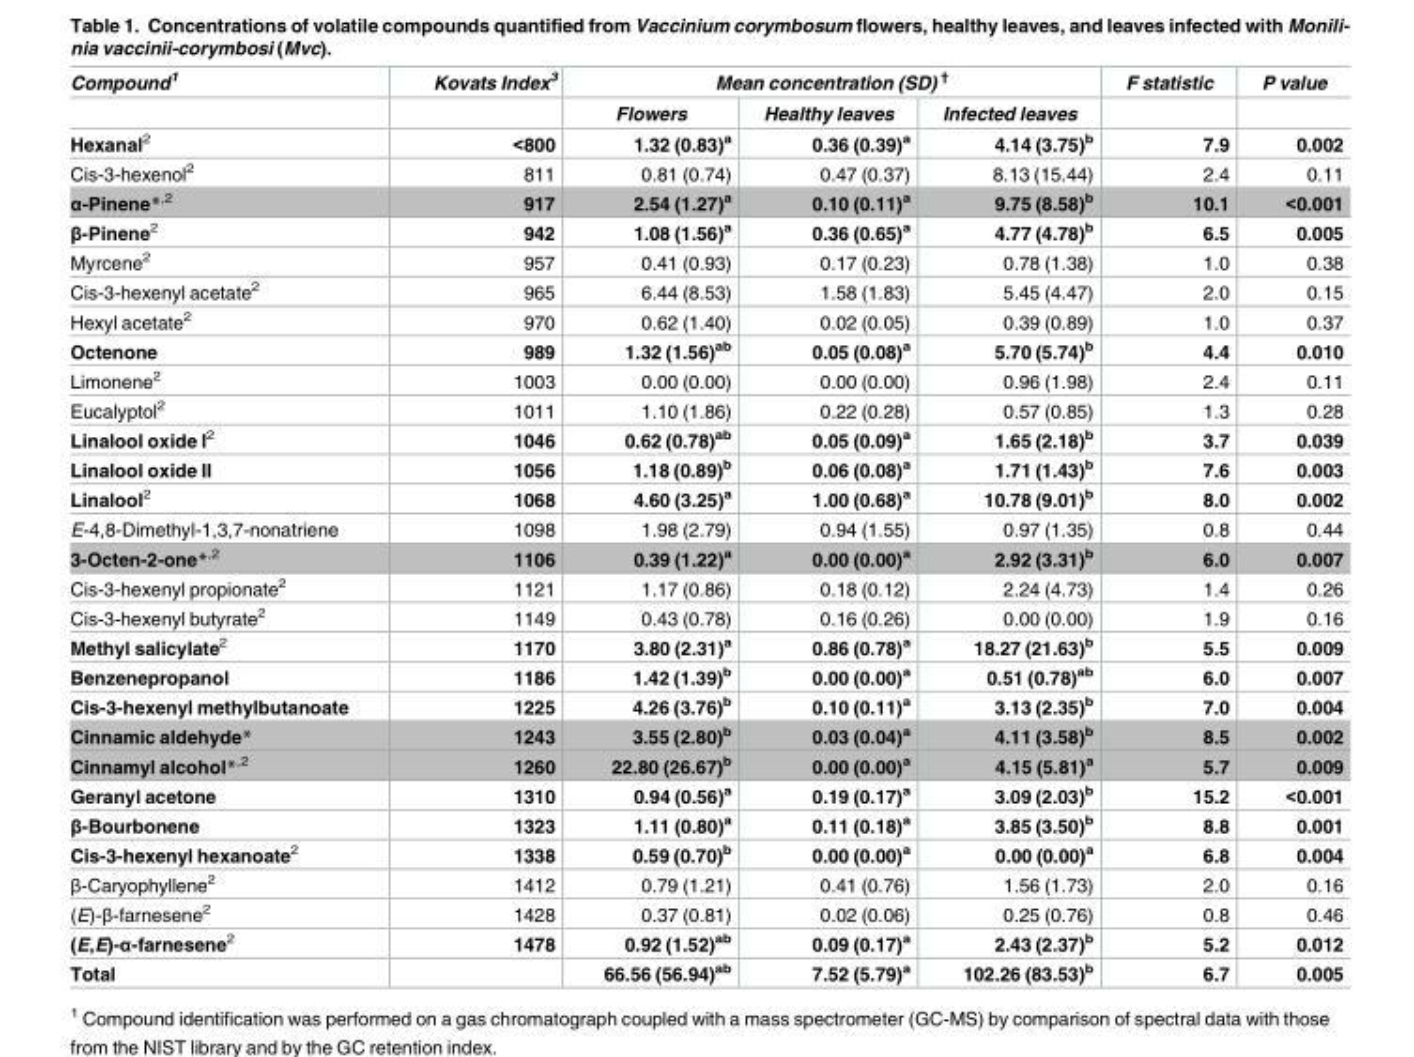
<table><thead><tr><td rowspan="2">Compound<sup>1</sup></td><td rowspan="2">Kovats Index<sup>3</sup></td><td colspan="3">Mean concentration (SD) <sup>†</sup></td><td rowspan="2">F statistic</td><td rowspan="2">P value</td></tr><tr><td>Flowers</td><td>Healthy leaves</td><td>Infected leaves</td></tr></thead><tbody><tr><td>Hexanal<sup>2</sup></td><td>&lt;800</td><td>1.32 (0.83)<sup>a</sup></td><td>0.36 (0.39)<sup>a</sup></td><td>4.14 (3.75)<sup>b</sup></td><td>7.9</td><td>0.002</td></tr><tr><td>Cis-3-hexenol<sup>2</sup></td><td>811</td><td>0.81 (0.74)</td><td>0.47 (0.37)</td><td>8.13 (15.44)</td><td>2.4</td><td>0.11</td></tr><tr><td>α-Pinene*<sup>,2</sup></td><td>917</td><td>2.54 (1.27)<sup>a</sup></td><td>0.10 (0.11)<sup>a</sup></td><td>9.75 (8.58)<sup>b</sup></td><td>10.1</td><td>&lt;0.001</td></tr><tr><td>β-Pinene<sup>2</sup></td><td>942</td><td>1.08 (1.56)<sup>a</sup></td><td>0.36 (0.65)<sup>a</sup></td><td>4.77 (4.78)<sup>b</sup></td><td>6.5</td><td>0.005</td></tr><tr><td>Myrcene<sup>2</sup></td><td>957</td><td>0.41 (0.93)</td><td>0.17 (0.23)</td><td>0.78 (1.38)</td><td>1.0</td><td>0.38</td></tr><tr><td>Cis-3-hexenyl acetate<sup>2</sup></td><td>965</td><td>6.44 (8.53)</td><td>1.58 (1.83)</td><td>5.45 (4.47)</td><td>2.0</td><td>0.15</td></tr><tr><td>Hexyl acetate<sup>2</sup></td><td>970</td><td>0.62 (1.40)</td><td>0.02 (0.05)</td><td>0.39 (0.89)</td><td>1.0</td><td>0.37</td></tr><tr><td>Octenone</td><td>989</td><td>1.32 (1.56)<sup>ab</sup></td><td>0.05 (0.08)<sup>a</sup></td><td>5.70 (5.74)<sup>b</sup></td><td>4.4</td><td>0.010</td></tr><tr><td>Limonene<sup>2</sup></td><td>1003</td><td>0.00 (0.00)</td><td>0.00 (0.00)</td><td>0.96 (1.98)</td><td>2.4</td><td>0.11</td></tr><tr><td>Eucalyptol<sup>2</sup></td><td>1011</td><td>1.10 (1.86)</td><td>0.22 (0.28)</td><td>0.57 (0.85)</td><td>1.3</td><td>0.28</td></tr><tr><td>Linalool oxide I<sup>2</sup></td><td>1046</td><td>0.62 (0.78)<sup>ab</sup></td><td>0.05 (0.09)<sup>a</sup></td><td>1.65 (2.18)<sup>b</sup></td><td>3.7</td><td>0.039</td></tr><tr><td>Linalool oxide II</td><td>1056</td><td>1.18 (0.89)<sup>b</sup></td><td>0.06 (0.08)<sup>a</sup></td><td>1.71 (1.43)<sup>b</sup></td><td>7.6</td><td>0.003</td></tr><tr><td>Linalool<sup>2</sup></td><td>1068</td><td>4.60 (3.25)<sup>a</sup></td><td>1.00 (0.68)<sup>a</sup></td><td>10.78 (9.01)<sup>b</sup></td><td>8.0</td><td>0.002</td></tr><tr><td>E-4,8-Dimethyl-1,3,7-nonatriene</td><td>1098</td><td>1.98 (2.79)</td><td>0.94 (1.55)</td><td>0.97 (1.35)</td><td>0.8</td><td>0.44</td></tr><tr><td>3-Octen-2-one*<sup>,2</sup></td><td>1106</td><td>0.39 (1.22)<sup>a</sup></td><td>0.00 (0.00)<sup>a</sup></td><td>2.92 (3.31)<sup>b</sup></td><td>6.0</td><td>0.007</td></tr><tr><td>Cis-3-hexenyl propionate<sup>2</sup></td><td>1121</td><td>1.17 (0.86)</td><td>0.18 (0.12)</td><td>2.24 (4.73)</td><td>1.4</td><td>0.26</td></tr><tr><td>Cis-3-hexenyl butyrate<sup>2</sup></td><td>1149</td><td>0.43 (0.78)</td><td>0.16 (0.26)</td><td>0.00 (0.00)</td><td>1.9</td><td>0.16</td></tr><tr><td>Methyl salicylate<sup>2</sup></td><td>1170</td><td>3.80 (2.31)<sup>a</sup></td><td>0.86 (0.78)<sup>a</sup></td><td>18.27 (21.63)<sup>b</sup></td><td>5.5</td><td>0.009</td></tr><tr><td>Benzenepropanol</td><td>1186</td><td>1.42 (1.39)<sup>b</sup></td><td>0.00 (0.00)<sup>a</sup></td><td>0.51 (0.78)<sup>ab</sup></td><td>6.0</td><td>0.007</td></tr><tr><td>Cis-3-hexenyl methylbutanoate</td><td>1225</td><td>4.26 (3.76)<sup>b</sup></td><td>0.10 (0.11)<sup>a</sup></td><td>3.13 (2.35)<sup>b</sup></td><td>7.0</td><td>0.004</td></tr><tr><td>Cinnamic aldehyde*</td><td>1243</td><td>3.55 (2.80)<sup>b</sup></td><td>0.03 (0.04)<sup>a</sup></td><td>4.11 (3.58)<sup>b</sup></td><td>8.5</td><td>0.002</td></tr><tr><td>Cinnamyl alcohol*<sup>,2</sup></td><td>1260</td><td>22.80 (26.67)<sup>b</sup></td><td>0.00 (0.00)<sup>a</sup></td><td>4.15 (5.81)<sup>a</sup></td><td>5.7</td><td>0.009</td></tr><tr><td>Geranyl acetone</td><td>1310</td><td>0.94 (0.56)<sup>a</sup></td><td>0.19 (0.17)<sup>a</sup></td><td>3.09 (2.03)<sup>b</sup></td><td>15.2</td><td>&lt;0.001</td></tr><tr><td>β-Bourbonene</td><td>1323</td><td>1.11 (0.80)<sup>a</sup></td><td>0.11 (0.18)<sup>a</sup></td><td>3.85 (3.50)<sup>b</sup></td><td>8.8</td><td>0.001</td></tr><tr><td>Cis-3-hexenyl hexanoate<sup>2</sup></td><td>1338</td><td>0.59 (0.70)<sup>b</sup></td><td>0.00 (0.00)<sup>a</sup></td><td>0.00 (0.00)<sup>a</sup></td><td>6.8</td><td>0.004</td></tr><tr><td>β-Caryophyllene<sup>2</sup></td><td>1412</td><td>0.79 (1.21)</td><td>0.41 (0.76)</td><td>1.56 (1.73)</td><td>2.0</td><td>0.16</td></tr><tr><td>(E)-β-farnesene<sup>2</sup></td><td>1428</td><td>0.37 (0.81)</td><td>0.02 (0.06)</td><td>0.25 (0.76)</td><td>0.8</td><td>0.46</td></tr><tr><td>(E,E)-α-farnesene<sup>2</sup></td><td>1478</td><td>0.92 (1.52)<sup>ab</sup></td><td>0.09 (0.17)<sup>a</sup></td><td>2.43 (2.37)<sup>b</sup></td><td>5.2</td><td>0.012</td></tr><tr><td>Total</td><td></td><td>66.56 (56.94)<sup>ab</sup></td><td>7.52 (5.79)<sup>a</sup></td><td>102.26 (83.53)<sup>b</sup></td><td>6.7</td><td>0.005</td></tr></tbody></table>